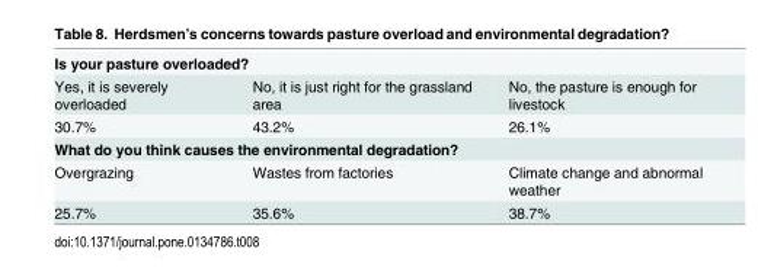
<table><tbody><tr><td colspan="3">Is your pasture overloaded?</td></tr><tr><td>Yes, it is severely overloaded</td><td>No, it is just right for the grassland area</td><td>No, the pasture is enough for livestock</td></tr><tr><td>30.7%</td><td>43.2%</td><td>26.1%</td></tr><tr><td colspan="3">What do you think causes the environmental degradation?</td></tr><tr><td>Overgrazing</td><td>Wastes from factories</td><td>Climate change and abnormal weather</td></tr><tr><td>25.7%</td><td>35.6%</td><td>38.7%</td></tr></tbody></table>